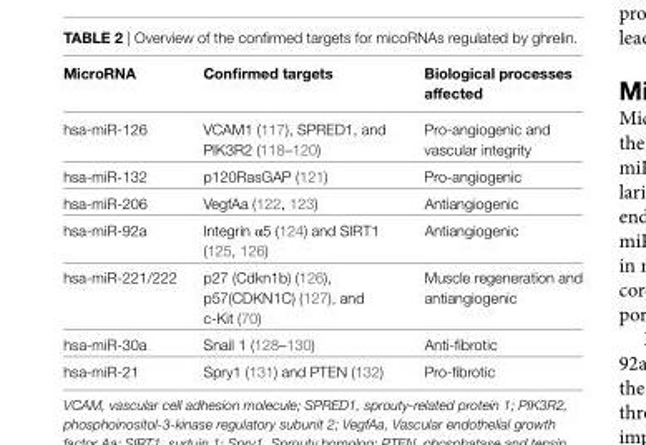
<table><thead><tr><td>MicroRNA</td><td>Confirmed targets</td><td>biological processes affected</td></tr></thead><tbody><tr><td>hsa-miR-126</td><td>VCAM1 (117), SPRED1, and PIK3R2 (118–120)</td><td>Pro-angiogenic and vascular integrity</td></tr><tr><td>hsa-miR-132</td><td>p120RasGAP (121)</td><td>Pro-angiogenic</td></tr><tr><td>hsa-miR-206</td><td>VegfAa (122, 123)</td><td>Antiangiogenic</td></tr><tr><td>hsa-miR-92a</td><td>Integrin α5 (124) and SIRT1 (125, 126)</td><td>Antiangiogenic</td></tr><tr><td>hsa-miR-221/222</td><td>p27 (Cdkn1b) (126), p57(CDKN1C) (127), and c-Kit (70)</td><td>Muscle regeneration and antiangiogenic</td></tr><tr><td>hsa-miR-30a</td><td>Snail 1 (128–130)</td><td>Anti-fibrotic</td></tr><tr><td>hsa-miR-21</td><td>Spry1 (131) and PTEN (132)</td><td>Pro-fibrotic</td></tr></tbody></table>